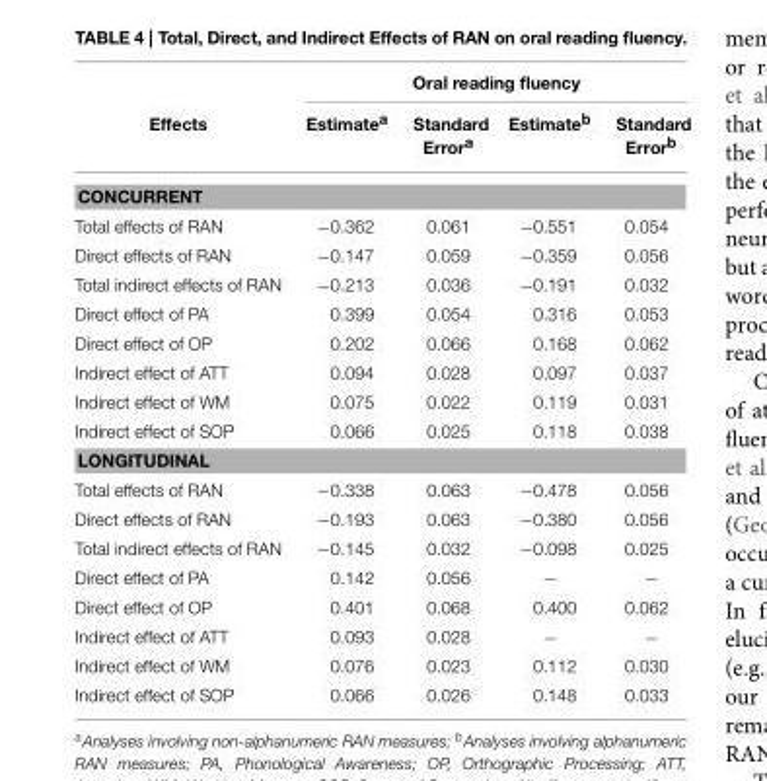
<table><thead><tr><td rowspan="2">Effects</td><td colspan="4">Oral reading fluency</td></tr><tr><td>Estimate<sup>a</sup></td><td>Standard Error<sup>a</sup></td><td>Estimate<sup>b</sup></td><td>Standard Error<sup>b</sup></td></tr></thead><tbody><tr><td colspan="5">CONCURRENT</td></tr><tr><td>Total effects of RAN</td><td>−0.362</td><td>0.061</td><td>−0.551</td><td>0.054</td></tr><tr><td>Direct effects of RAN</td><td>−0.147</td><td>0.059</td><td>−0.359</td><td>0.056</td></tr><tr><td>Total indirect effects of RAN</td><td>−0.213</td><td>0.036</td><td>−0.191</td><td>0.032</td></tr><tr><td>Direct effect of PA</td><td>0.399</td><td>0.054</td><td>0.316</td><td>0.053</td></tr><tr><td>Direct effect of OP</td><td>0.202</td><td>0.066</td><td>0.168</td><td>0.062</td></tr><tr><td>Indirect effect of ATT</td><td>0.094</td><td>0.028</td><td>0.097</td><td>0.037</td></tr><tr><td>Indirect effect of WM</td><td>0.075</td><td>0.022</td><td>0.119</td><td>0.031</td></tr><tr><td>Indirect effect of SOP</td><td>0.066</td><td>0.025</td><td>0.118</td><td>0.038</td></tr><tr><td colspan="5">LONGITUDINAL</td></tr><tr><td>Total effects of RAN</td><td>−0.338</td><td>0.063</td><td>−0.478</td><td>0.056</td></tr><tr><td>Direct effects of RAN</td><td>−0.193</td><td>0.063</td><td>−0.380</td><td>0.056</td></tr><tr><td>Total indirect effects of RAN</td><td>−0.145</td><td>0.032</td><td>−0.098</td><td>0.025</td></tr><tr><td>Direct effect of PA</td><td>0.142</td><td>0.056</td><td>−</td><td>−</td></tr><tr><td>Direct effect of OP</td><td>0.401</td><td>0.068</td><td>0.400</td><td>0.062</td></tr><tr><td>Indirect effect of ATT</td><td>0.093</td><td>0.028</td><td>−</td><td>−</td></tr><tr><td>Indirect effect of WM</td><td>0.076</td><td>0.023</td><td>0.112</td><td>0.030</td></tr><tr><td>Indirect effect of SOP</td><td>0.066</td><td>0.026</td><td>0.148</td><td>0.033</td></tr></tbody></table>